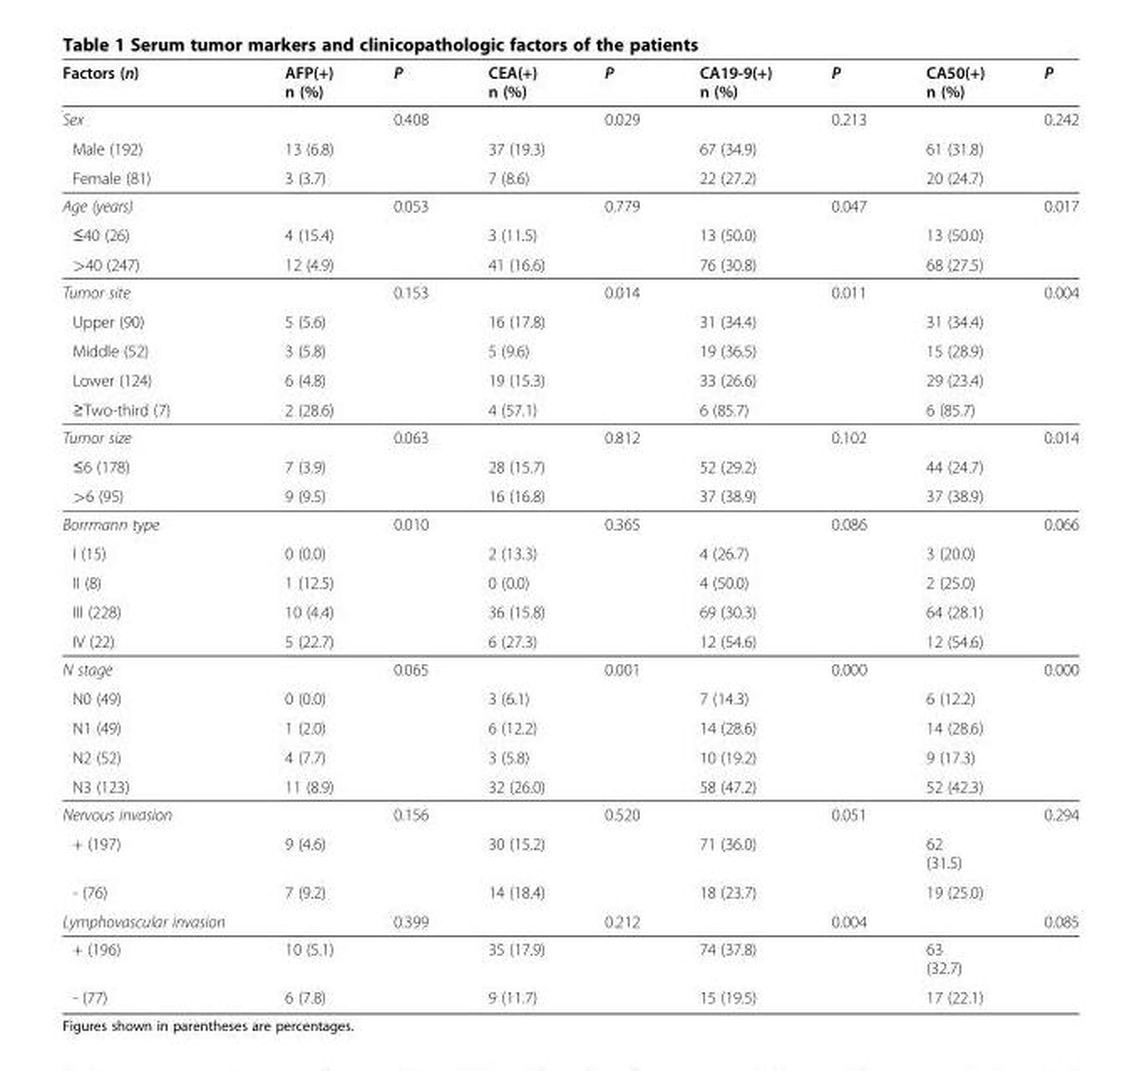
<table><thead><tr><td>Factors (n)</td><td>AFP(+) n (%)</td><td>P</td><td>CEA(+) n (%)</td><td>P</td><td>CA19-9(+) n (%)</td><td>P</td><td>CA50(+) n (%)</td><td>P</td></tr></thead><tbody><tr><td>Sex</td><td></td><td>0.408</td><td></td><td>0.029</td><td></td><td>0.213</td><td></td><td>0.242</td></tr><tr><td>Male (192)</td><td>13 (6.8)</td><td></td><td>37 (19.3)</td><td></td><td>67 (34.9)</td><td></td><td>61 (31.8)</td><td></td></tr><tr><td>Female (81)</td><td>3 (3.7)</td><td></td><td>7 (8.6)</td><td></td><td>22 (27.2)</td><td></td><td>20 (24.7)</td><td></td></tr><tr><td>Age (years)</td><td></td><td>0.053</td><td></td><td>0.779</td><td></td><td>0.047</td><td></td><td>0.017</td></tr><tr><td>≤40 (26)</td><td>4 (15.4)</td><td></td><td>3 (11.5)</td><td></td><td>13 (50.0)</td><td></td><td>13 (50.0)</td><td></td></tr><tr><td>&gt;40 (247)</td><td>12 (4.9)</td><td></td><td>41 (16.6)</td><td></td><td>76 (30.8)</td><td></td><td>68 (27.5)</td><td></td></tr><tr><td>Tumor site</td><td></td><td>0.153</td><td></td><td>0.014</td><td></td><td>0.011</td><td></td><td>0.004</td></tr><tr><td>Upper (90)</td><td>5 (5.6)</td><td></td><td>16 (17.8)</td><td></td><td>31 (34.4)</td><td></td><td>31 (34.4)</td><td></td></tr><tr><td>Middle (52)</td><td>3 (5.8)</td><td></td><td>5 (9.6)</td><td></td><td>19 (36.5)</td><td></td><td>15 (28.9)</td><td></td></tr><tr><td>Lower (124)</td><td>6 (4.8)</td><td></td><td>19 (15.3)</td><td></td><td>33 (26.6)</td><td></td><td>29 (23.4)</td><td></td></tr><tr><td>≥Two-third (7)</td><td>2 (28.6)</td><td></td><td>4 (57.1)</td><td></td><td>6 (85.7)</td><td></td><td>6 (85.7)</td><td></td></tr><tr><td>Tumor size</td><td></td><td>0.063</td><td></td><td>0.812</td><td></td><td>0.102</td><td></td><td>0.014</td></tr><tr><td>≤6 (178)</td><td>7 (3.9)</td><td></td><td>28 (15.7)</td><td></td><td>52 (29.2)</td><td></td><td>44 (24.7)</td><td></td></tr><tr><td>&gt;6 (95)</td><td>9 (9.5)</td><td></td><td>16 (16.8)</td><td></td><td>37 (38.9)</td><td></td><td>37 (38.9)</td><td></td></tr><tr><td>Borrmann type</td><td></td><td>0.010</td><td></td><td>0.365</td><td></td><td>0.086</td><td></td><td>0.066</td></tr><tr><td>I (15)</td><td>0 (0.0)</td><td></td><td>2 (13.3)</td><td></td><td>4 (26.7)</td><td></td><td>3 (20.0)</td><td></td></tr><tr><td>II (8)</td><td>1 (12.5)</td><td></td><td>0 (0.0)</td><td></td><td>4 (50.0)</td><td></td><td>2 (25.0)</td><td></td></tr><tr><td>III (228)</td><td>10 (4.4)</td><td></td><td>36 (15.8)</td><td></td><td>69 (30.3)</td><td></td><td>64 (28.1)</td><td></td></tr><tr><td>IV (22)</td><td>5 (22.7)</td><td></td><td>6 (27.3)</td><td></td><td>12 (54.6)</td><td></td><td>12 (54.6)</td><td></td></tr><tr><td>N stage</td><td></td><td>0.065</td><td></td><td>0.001</td><td></td><td>0.000</td><td></td><td>0.000</td></tr><tr><td>N0 (49)</td><td>0 (0.0)</td><td></td><td>3 (6.1)</td><td></td><td>7 (14.3)</td><td></td><td>6 (12.2)</td><td></td></tr><tr><td>N1 (49)</td><td>1 (2.0)</td><td></td><td>6 (12.2)</td><td></td><td>14 (28.6)</td><td></td><td>14 (28.6)</td><td></td></tr><tr><td>N2 (52)</td><td>4 (7.7)</td><td></td><td>3 (5.8)</td><td></td><td>10 (19.2)</td><td></td><td>9 (17.3)</td><td></td></tr><tr><td>N3 (123)</td><td>11 (8.9)</td><td></td><td>32 (26.0)</td><td></td><td>58 (47.2)</td><td></td><td>52 (42.3)</td><td></td></tr><tr><td>Nervous invasion</td><td></td><td>0.156</td><td></td><td>0.520</td><td></td><td>0.051</td><td></td><td>0.294</td></tr><tr><td>+ (197)</td><td>9 (4.6)</td><td></td><td>30 (15.2)</td><td></td><td>71 (36.0)</td><td></td><td>62 (31.5)</td><td></td></tr><tr><td>- (76)</td><td>7 (9.2)</td><td></td><td>14 (18.4)</td><td></td><td>18 (23.7)</td><td></td><td>19 (25.0)</td><td></td></tr><tr><td>Lymphovascular invasion</td><td></td><td>0.399</td><td></td><td>0.212</td><td></td><td>0.004</td><td></td><td>0.085</td></tr><tr><td>+ (196)</td><td>10 (5.1)</td><td></td><td>35 (17.9)</td><td></td><td>74 (37.8)</td><td></td><td>63 (32.7)</td><td></td></tr><tr><td>- (77)</td><td>6 (7.8)</td><td></td><td>9 (11.7)</td><td></td><td>15 (19.5)</td><td></td><td>17 (22.1)</td><td></td></tr></tbody></table>